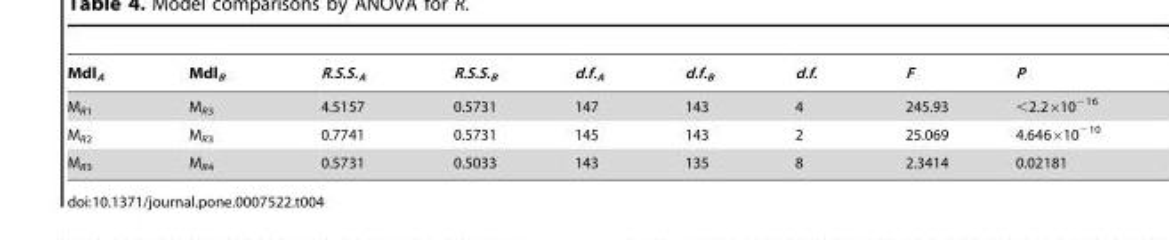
<table><thead><tr><td>Mdl<sub>A</sub></td><td>Mdl<sub>B</sub></td><td>R.S.S.<sub>A</sub></td><td>R.S.S.<sub>B</sub></td><td>d.f.<sub>A</sub></td><td>d.f.<sub>B</sub></td><td>d.f.</td><td>F</td><td>P</td></tr></thead><tbody><tr><td>M<sub>R1</sub></td><td>M<sub>R3</sub></td><td>4.5157</td><td>0.5731</td><td>147</td><td>143</td><td>4</td><td>245.93</td><td>&lt;2.2×10<sup>−16</sup></td></tr><tr><td>M<sub>R2</sub></td><td>M<sub>R3</sub></td><td>0.7741</td><td>0.5731</td><td>145</td><td>143</td><td>2</td><td>25.069</td><td>4.646×10<sup>−10</sup></td></tr><tr><td>M<sub>R3</sub></td><td>M<sub>R4</sub></td><td>0.5731</td><td>0.5033</td><td>143</td><td>135</td><td>8</td><td>2.3414</td><td>0.02181</td></tr></tbody></table>